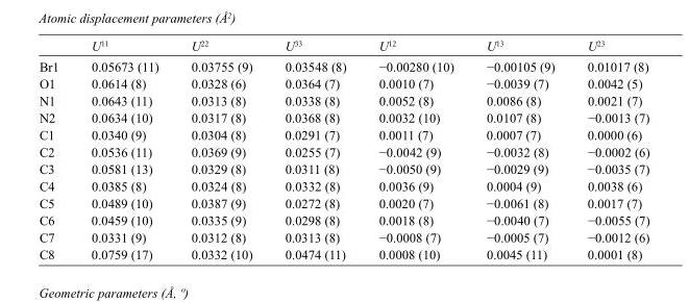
<table><thead><tr><td></td><td>U<sup>11</sup></td><td>U<sup>22</sup></td><td>U<sup>33</sup></td><td>U<sup>12</sup></td><td>U<sup>13</sup></td><td>U<sup>23</sup></td></tr></thead><tbody><tr><td>Br1</td><td>0.05673 (11)</td><td>0.03755 (9)</td><td>0.03548 (8)</td><td>−0.00280 (10)</td><td>−0.00105 (9)</td><td>0.01017 (8)</td></tr><tr><td>O1</td><td>0.0614 (8)</td><td>0.0328 (6)</td><td>0.0364 (7)</td><td>0.0010 (7)</td><td>−0.0039 (7)</td><td>0.0042 (5)</td></tr><tr><td>N1</td><td>0.0643 (11)</td><td>0.0313 (8)</td><td>0.0338 (8)</td><td>0.0052 (8)</td><td>0.0086 (8)</td><td>0.0021 (7)</td></tr><tr><td>N2</td><td>0.0634 (10)</td><td>0.0317 (8)</td><td>0.0368 (8)</td><td>0.0032 (10)</td><td>0.0107 (8)</td><td>−0.0013 (7)</td></tr><tr><td>C1</td><td>0.0340 (9)</td><td>0.0304 (8)</td><td>0.0291 (7)</td><td>0.0011 (7)</td><td>0.0007 (7)</td><td>0.0000 (6)</td></tr><tr><td>C2</td><td>0.0536 (11)</td><td>0.0369 (9)</td><td>0.0255 (7)</td><td>−0.0042 (9)</td><td>−0.0032 (8)</td><td>−0.0002 (6)</td></tr><tr><td>C3</td><td>0.0581 (13)</td><td>0.0329 (8)</td><td>0.0311 (8)</td><td>−0.0050 (9)</td><td>−0.0029 (9)</td><td>−0.0035 (7)</td></tr><tr><td>C4</td><td>0.0385 (8)</td><td>0.0324 (8)</td><td>0.0332 (8)</td><td>0.0036 (9)</td><td>0.0004 (9)</td><td>0.0038 (6)</td></tr><tr><td>C5</td><td>0.0489 (10)</td><td>0.0387 (9)</td><td>0.0272 (8)</td><td>0.0020 (7)</td><td>−0.0061 (8)</td><td>0.0017 (7)</td></tr><tr><td>C6</td><td>0.0459 (10)</td><td>0.0335 (9)</td><td>0.0298 (8)</td><td>0.0018 (8)</td><td>−0.0040 (7)</td><td>−0.0055 (7)</td></tr><tr><td>C7</td><td>0.0331 (9)</td><td>0.0312 (8)</td><td>0.0313 (8)</td><td>−0.0008 (7)</td><td>−0.0005 (7)</td><td>−0.0012 (6)</td></tr><tr><td>C8</td><td>0.0759 (17)</td><td>0.0332 (10)</td><td>0.0474 (11)</td><td>0.0008 (10)</td><td>0.0045 (11)</td><td>0.0001 (8)</td></tr></tbody></table>